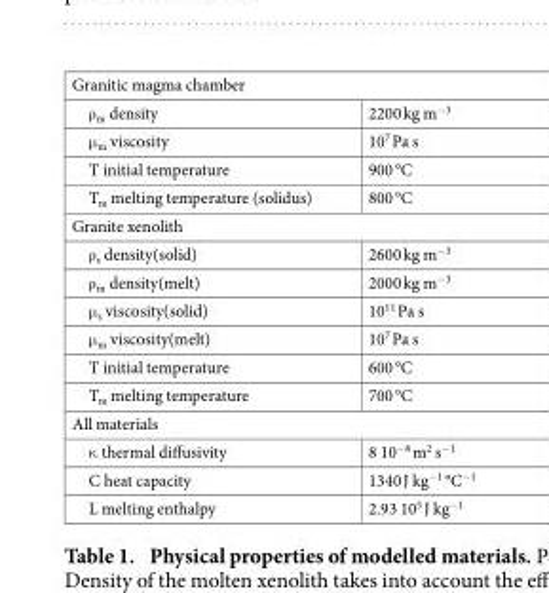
<table><tbody><tr><td colspan="2">Granitic magma chamber</td></tr><tr><td>ρ <sub>m</sub> density</td><td>2200 kg m<sup>−3</sup></td></tr><tr><td>μ <sub>m</sub> viscosity</td><td>10<sup>7</sup> Pa s</td></tr><tr><td>T initial temperature</td><td>900 °C</td></tr><tr><td>T<sub>m</sub> melting temperature (solidus)</td><td>800 °C</td></tr><tr><td colspan="2">Granite xenolith</td></tr><tr><td>ρ <sub>s</sub> density(solid)</td><td>2600 kg m<sup>−3</sup></td></tr><tr><td>ρ <sub>m</sub> density(melt)</td><td>2000 kg m<sup>−3</sup></td></tr><tr><td>μ <sub>s</sub> viscosity(solid)</td><td>10<sup>11</sup> Pa s</td></tr><tr><td>μ <sub>m</sub> viscosity(melt)</td><td>10<sup>7</sup> Pa s</td></tr><tr><td>T initial temperature</td><td>600 °C</td></tr><tr><td>T<sub>m</sub> melting temperature</td><td>700 °C</td></tr><tr><td colspan="2">All materials</td></tr><tr><td>κ thermal diffusivity</td><td>8 10<sup>−8</sup> m<sup>2</sup> s<sup>−1</sup></td></tr><tr><td>C heat capacity</td><td>1340 J kg<sup>−1</sup> °C<sup>−1</sup></td></tr><tr><td>L melting enthalpy</td><td>2.93 10<sup>5</sup> J kg<sup>−1</sup></td></tr></tbody></table>